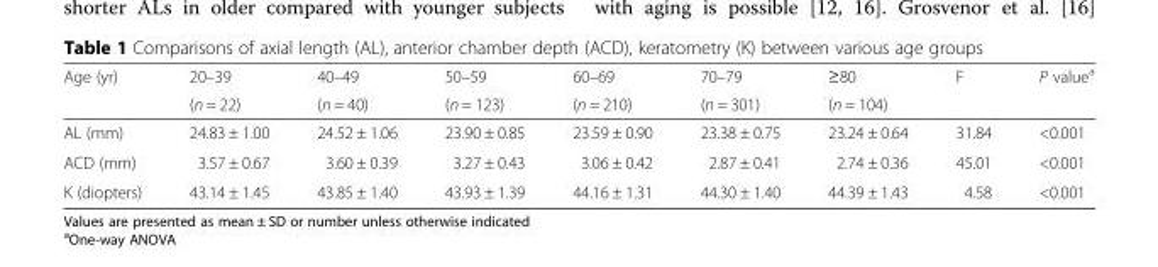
<table><thead><tr><td rowspan="2">Age (yr)</td><td rowspan="2">20–39 (n = 22)</td><td rowspan="2">40–49 (n = 40)</td><td rowspan="2">50–59 (n = 123)</td><td rowspan="2">60–69 (n = 210)</td><td rowspan="2">70–79 (n = 301)</td><td rowspan="2">≥80 (n = 104)</td><td rowspan="2">F</td><td rowspan="2">P value<sup>a</sup></td></tr><tr></tr></thead><tbody><tr><td>AL (mm)</td><td>24.83 ± 1.00</td><td>24.52 ± 1.06</td><td>23.90 ± 0.85</td><td>23.59 ± 0.90</td><td>23.38 ± 0.75</td><td>23.24 ± 0.64</td><td>31.84</td><td>&lt;0.001</td></tr><tr><td>ACD (mm)</td><td>3.57 ± 0.67</td><td>3.60 ± 0.39</td><td>3.27 ± 0.43</td><td>3.06 ± 0.42</td><td>2.87 ± 0.41</td><td>2.74 ± 0.36</td><td>45.01</td><td>&lt;0.001</td></tr><tr><td>K (diopters)</td><td>43.14 ± 1.45</td><td>43.85 ± 1.40</td><td>43.93 ± 1.39</td><td>44.16 ± 1.31</td><td>44.30 ± 1.40</td><td>44.39 ± 1.43</td><td>4.58</td><td>&lt;0.001</td></tr></tbody></table>